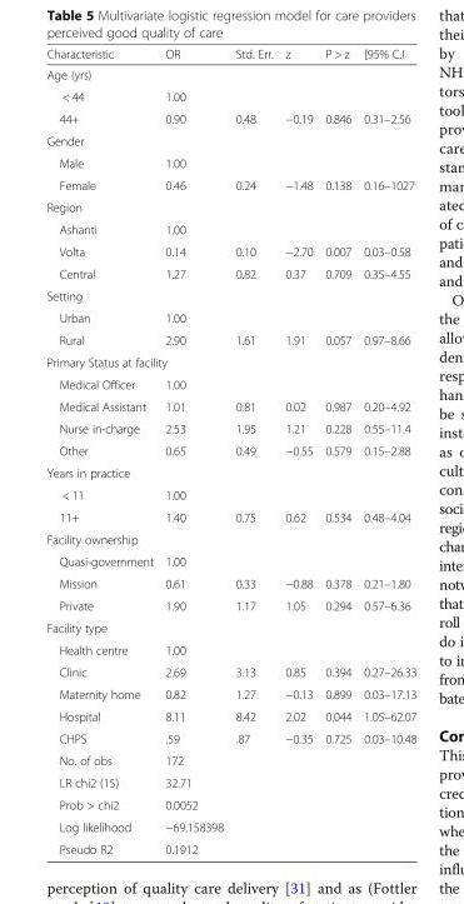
<table><thead><tr><td>Characteristic</td><td>OR</td><td>Std. Err.</td><td>z</td><td>P &gt; z</td><td>[95% C.I</td></tr></thead><tbody><tr><td colspan="6">Age (yrs)</td></tr><tr><td>&lt; 44</td><td>1.00</td><td></td><td></td><td></td><td></td></tr><tr><td>44+</td><td>0.90</td><td>0.48</td><td>−0.19</td><td>0.846</td><td>0.31–2.56</td></tr><tr><td colspan="6">Gender</td></tr><tr><td>Male</td><td>1.00</td><td></td><td></td><td></td><td></td></tr><tr><td>Female</td><td>0.46</td><td>0.24</td><td>−1.48</td><td>0.138</td><td>0.16–1027</td></tr><tr><td colspan="6">Region</td></tr><tr><td>Ashanti</td><td>1.00</td><td></td><td></td><td></td><td></td></tr><tr><td>Volta</td><td>0.14</td><td>0.10</td><td>−2.70</td><td>0.007</td><td>0.03–0.58</td></tr><tr><td>Central</td><td>1.27</td><td>0.82</td><td>0.37</td><td>0.709</td><td>0.35–4.55</td></tr><tr><td colspan="6">Setting</td></tr><tr><td>Urban</td><td>1.00</td><td></td><td></td><td></td><td></td></tr><tr><td>Rural</td><td>2.90</td><td>1.61</td><td>1.91</td><td>0.057</td><td>0.97–8.66</td></tr><tr><td colspan="6">Primary Status at facility</td></tr><tr><td>Medical Officer</td><td>1.00</td><td></td><td></td><td></td><td></td></tr><tr><td>Medical Assistant</td><td>1.01</td><td>0.81</td><td>0.02</td><td>0.987</td><td>0.20–4.92</td></tr><tr><td>Nurse in-charge</td><td>2.53</td><td>1.95</td><td>1.21</td><td>0.228</td><td>0.55–11.4</td></tr><tr><td>Other</td><td>0.65</td><td>0.49</td><td>−0.55</td><td>0.579</td><td>0.15–2.88</td></tr><tr><td colspan="6">Years in practice</td></tr><tr><td>&lt; 11</td><td>1.00</td><td></td><td></td><td></td><td></td></tr><tr><td>11+</td><td>1.40</td><td>0.75</td><td>0.62</td><td>0.534</td><td>0.48–4.04</td></tr><tr><td colspan="6">Facility ownership</td></tr><tr><td>Quasi-government</td><td>1.00</td><td></td><td></td><td></td><td></td></tr><tr><td>Mission</td><td>0.61</td><td>0.33</td><td>−0.88</td><td>0.378</td><td>0.21–1.80</td></tr><tr><td>Private</td><td>1.90</td><td>1.17</td><td>1.05</td><td>0.294</td><td>0.57–6.36</td></tr><tr><td colspan="6">Facility type</td></tr><tr><td>Health centre</td><td>1.00</td><td></td><td></td><td></td><td></td></tr><tr><td>Clinic</td><td>2.69</td><td>3.13</td><td>0.85</td><td>0.394</td><td>0.27–26.33</td></tr><tr><td>Maternity home</td><td>0.82</td><td>1.27</td><td>−0.13</td><td>0.899</td><td>0.03–17.13</td></tr><tr><td>Hospital</td><td>8.11</td><td>8.42</td><td>2.02</td><td>0.044</td><td>1.05–62.07</td></tr><tr><td>CHPS</td><td>.59</td><td>.87</td><td>−0.35</td><td>0.725</td><td>0.03–10.48</td></tr><tr><td>No. of obs</td><td>172</td><td></td><td></td><td></td><td></td></tr><tr><td>LR chi2 (15)</td><td>32.71</td><td></td><td></td><td></td><td></td></tr><tr><td>Prob &gt; chi2</td><td>0.0052</td><td></td><td></td><td></td><td></td></tr><tr><td>Log likelihood</td><td>−69.158398</td><td></td><td></td><td></td><td></td></tr><tr><td>Pseudo R2</td><td>0.1912</td><td></td><td></td><td></td><td></td></tr></tbody></table>